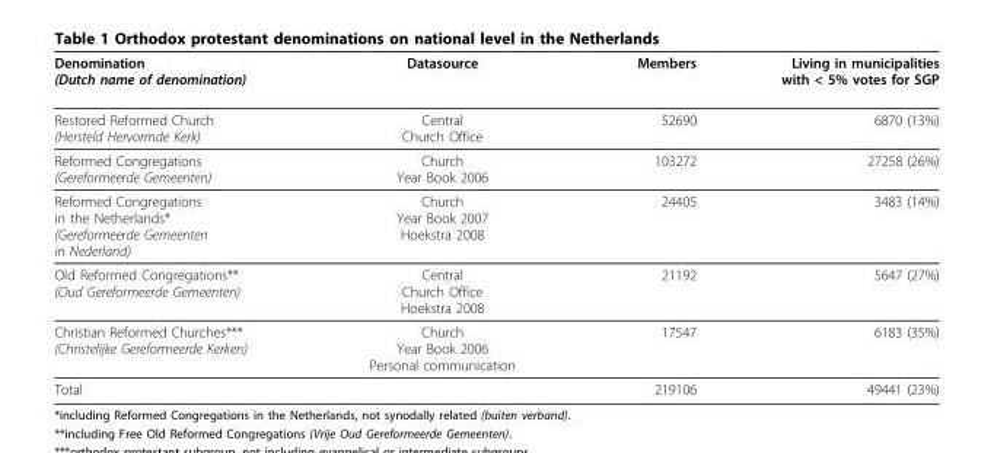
<table><thead><tr><td>Denomination (Dutch name of denomination)</td><td>Datasource</td><td>Members</td><td>Living in municipalities with &lt; 5% votes for SGP</td></tr></thead><tbody><tr><td>Restored Reformed Church (Hersteld Hervormde Kerk)</td><td>Central Church Office</td><td>52690</td><td>6870 (13%)</td></tr><tr><td>Reformed Congregations (Gereformeerde Gemeenten)</td><td>Church Year Book 2006</td><td>103272</td><td>27258 (26%)</td></tr><tr><td>Reformed Congregations in the Netherlands* (Gereformeerde Gemeenten in Nederland)</td><td>Church Year Book 2007 Hoekstra 2008</td><td>24405</td><td>3483 (14%)</td></tr><tr><td>Old Reformed Congregations** (Oud Gereformeerde Gemeenten)</td><td>Central Church Office Hoekstra 2008</td><td>21192</td><td>5647 (27%)</td></tr><tr><td>Christian Reformed Churches*** (Christelijke Gereformeerde Kerken)</td><td>Church Year Book 2006 Personal communication</td><td>17547</td><td>6183 (35%)</td></tr><tr><td>Total</td><td></td><td>219106</td><td>49441 (23%)</td></tr></tbody></table>